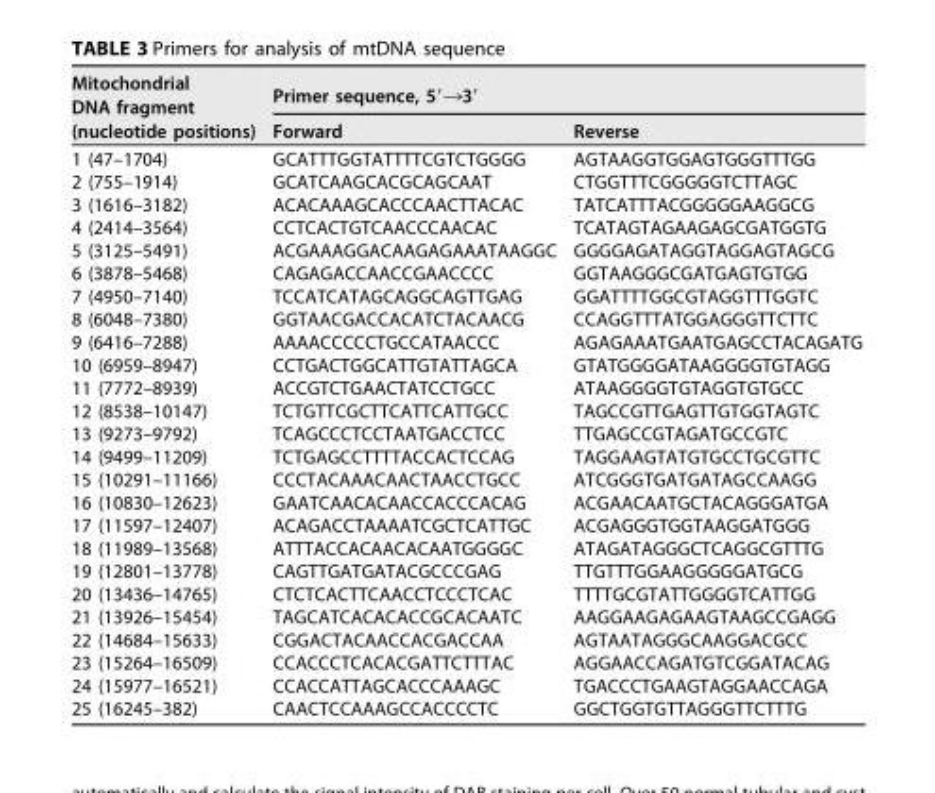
<table><thead><tr><td rowspan="2">Mitochondrial DNA fragment (nucleotide positions)</td><td colspan="2">Primer sequence, 5=¡3=</td></tr><tr><td>Forward</td><td>Reverse</td></tr></thead><tbody><tr><td>1 (47–1704)</td><td>GCATTTGGTATTTTCGTCTGGGG</td><td>AGTAAGGTGGAGTGGGTTTGG</td></tr><tr><td>2 (755–1914)</td><td>GCATCAAGCACGCAGCAAT</td><td>CTGGTTTCGGGGGTCTTAGC</td></tr><tr><td>3 (1616–3182)</td><td>ACACAAAGCACCCAACTTACAC</td><td>TATCATTTACGGGGGAAGGCG</td></tr><tr><td>4 (2414–3564)</td><td>CCTCACTGTCAACCCAACAC</td><td>TCATAGTAGAAGAGCGATGGTG</td></tr><tr><td>5 (3125–5491)</td><td>ACGAAAGGACAAGAGAAATAAGGC</td><td>GGGGAGATAGGTAGGAGTAGCG</td></tr><tr><td>6 (3878–5468)</td><td>CAGAGACCAACCGAACCCC</td><td>GGTAAGGGCGATGAGTGTGG</td></tr><tr><td>7 (4950–7140)</td><td>TCCATCATAGCAGGCAGTTGAG</td><td>GGATTTTGGCGTAGGTTTGGTC</td></tr><tr><td>8 (6048–7380)</td><td>GGTAACGACCACATCTACAACG</td><td>CCAGGTTTATGGAGGGTTCTTC</td></tr><tr><td>9 (6416–7288)</td><td>AAAACCCCCTGCCATAACCC</td><td>AGAGAAATGAATGAGCCTACAGATG</td></tr><tr><td>10 (6959–8947)</td><td>CCTGACTGGCATTGTATTAGCA</td><td>GTATGGGGATAAGGGGTGTAGG</td></tr><tr><td>11 (7772–8939)</td><td>ACCGTCTGAACTATCCTGCC</td><td>ATAAGGGGTGTAGGTGTGCC</td></tr><tr><td>12 (8538–10147)</td><td>TCTGTTCGCTTCATTCATTGCC</td><td>TAGCCGTTGAGTTGTGGTAGTC</td></tr><tr><td>13 (9273–9792)</td><td>TCAGCCCTCCTAATGACCTCC</td><td>TTGAGCCGTAGATGCCGTC</td></tr><tr><td>14 (9499–11209)</td><td>TCTGAGCCTTTTACCACTCCAG</td><td>TAGGAAGTATGTGCCTGCGTTC</td></tr><tr><td>15 (10291–11166)</td><td>CCCTACAAACAACTAACCTGCC</td><td>ATCGGGTGATGATAGCCAAGG</td></tr><tr><td>16 (10830–12623)</td><td>GAATCAACACAACCACCCACAG</td><td>ACGAACAATGCTACAGGGATGA</td></tr><tr><td>17 (11597–12407)</td><td>ACAGACCTAAAATCGCTCATTGC</td><td>ACGAGGGTGGTAAGGATGGG</td></tr><tr><td>18 (11989–13568)</td><td>ATTTACCACAACACAATGGGGC</td><td>ATAGATAGGGCTCAGGCGTTTG</td></tr><tr><td>19 (12801–13778)</td><td>CAGTTGATGATACGCCCGAG</td><td>TTGTTTGGAAGGGGGATGCG</td></tr><tr><td>20 (13436–14765)</td><td>CTCTCACTTCAACCTCCCTCAC</td><td>TTTTGCGTATTGGGGTCATTGG</td></tr><tr><td>21 (13926–15454)</td><td>TAGCATCACACACCGCACAATC</td><td>AAGGAAGAGAAGTAAGCCGAGG</td></tr><tr><td>22 (14684–15633)</td><td>CGGACTACAACCACGACCAA</td><td>AGTAATAGGGCAAGGACGCC</td></tr><tr><td>23 (15264–16509)</td><td>CCACCCTCACACGATTCTTTAC</td><td>AGGAACCAGATGTCGGATACAG</td></tr><tr><td>24 (15977–16521)</td><td>CCACCATTAGCACCCAAAGC</td><td>TGACCCTGAAGTAGGAACCAGA</td></tr><tr><td>25 (16245–382)</td><td>CAACTCCAAAGCCACCCCTC</td><td>GGCTGGTGTTAGGGTTCTTTG</td></tr></tbody></table>